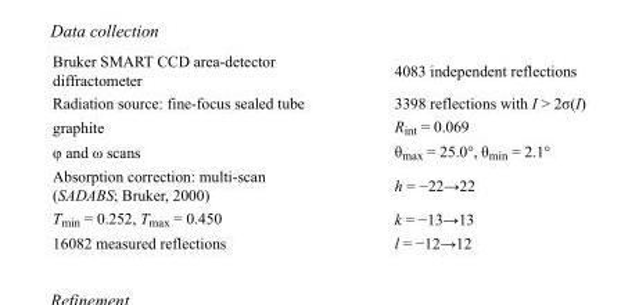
<table><tbody><tr><td>Bruker SMART CCD area-detector diffractometer</td><td>4083 independent reflections</td></tr><tr><td>Radiation source: fine-focus sealed tube</td><td>3398 reflections with I &gt; 2σ(I)</td></tr><tr><td>graphite</td><td>R<sub>int</sub> = 0.069</td></tr><tr><td>φ and ω scans</td><td>θ<sub>max</sub> = 25.0°, θ<sub>min</sub> = 2.1°</td></tr><tr><td>Absorption correction: multi-scan (SADABS; Bruker, 2000)</td><td>h = −22→22</td></tr><tr><td>T<sub>min</sub> = 0.252, T<sub>max</sub> = 0.450</td><td>k = −13→13</td></tr><tr><td>16082 measured reflections</td><td>l = −12→12</td></tr></tbody></table>